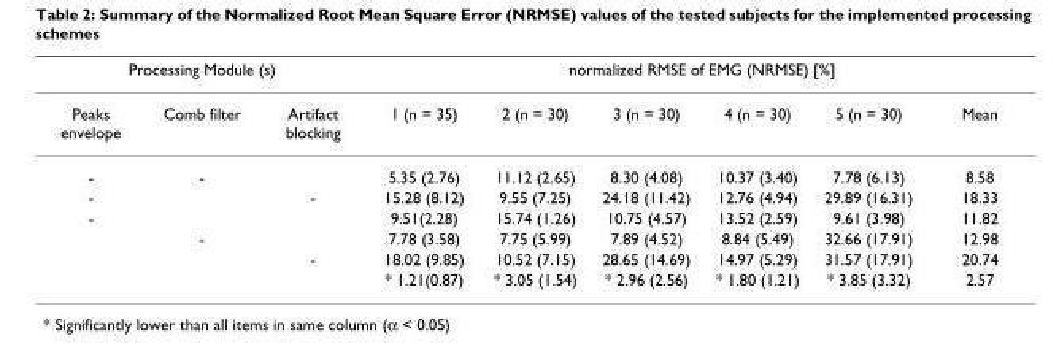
<table><thead><tr><td colspan="3">Processing Module (s)</td><td colspan="6">normalized RMSE of EMG (NRMSE) [%]</td></tr><tr><td>Peaks envelope</td><td>Comb filter</td><td>Artifact blocking</td><td>1 (n = 35)</td><td>2 (n = 30)</td><td>3 (n = 30)</td><td>4 (n = 30)</td><td>5 (n = 30)</td><td>Mean</td></tr></thead><tbody><tr><td>-</td><td>-</td><td></td><td>5.35 (2.76)</td><td>11.12 (2.65)</td><td>8.30 (4.08)</td><td>10.37 (3.40)</td><td>7.78 (6.13)</td><td>8.58</td></tr><tr><td>-</td><td></td><td>-</td><td>15.28 (8.12)</td><td>9.55 (7.25)</td><td>24.18 (11.42)</td><td>12.76 (4.94)</td><td>29.89 (16.31)</td><td>18.33</td></tr><tr><td rowspan="4">-</td><td></td><td></td><td>9.51(2.28)</td><td>15.74 (1.26)</td><td>10.75 (4.57)</td><td>13.52 (2.59)</td><td>9.61 (3.98)</td><td>11.82</td></tr><tr><td>-</td><td></td><td>7.78 (3.58)</td><td>7.75 (5.99)</td><td>7.89 (4.52)</td><td>8.84 (5.49)</td><td>32.66 (17.91)</td><td>12.98</td></tr><tr><td></td><td>-</td><td>18.02 (9.85)</td><td>10.52 (7.15)</td><td>28.65 (14.69)</td><td>14.97 (5.29)</td><td>31.57 (17.91)</td><td>20.74</td></tr><tr><td></td><td></td><td>* 1.21(0.87)</td><td>* 3.05 (1.54)</td><td>* 2.96 (2.56)</td><td>* 1.80 (1.21)</td><td>* 3.85 (3.32)</td><td>2.57</td></tr></tbody></table>